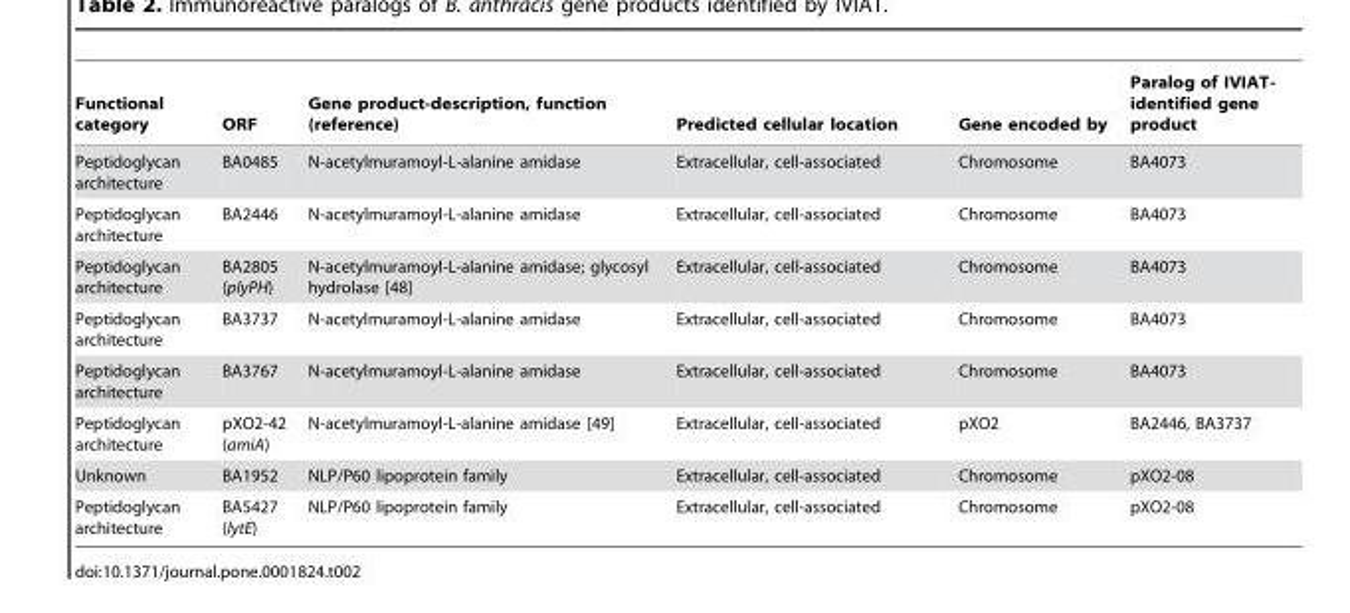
<table><thead><tr><td>Functional category</td><td>ORF</td><td>Gene product-description, function (reference)</td><td>Predicted cellular location</td><td>Gene encoded by</td><td>Paralog of IVIAT- identified gene product</td></tr></thead><tbody><tr><td>Peptidoglycan architecture</td><td>BA0485</td><td>N-acetylmuramoyl-L-alanine amidase</td><td>Extracellular, cell-associated</td><td>Chromosome</td><td>BA4073</td></tr><tr><td>Peptidoglycan architecture</td><td>BA2446</td><td>N-acetylmuramoyl-L-alanine amidase</td><td>Extracellular, cell-associated</td><td>Chromosome</td><td>BA4073</td></tr><tr><td>Peptidoglycan architecture</td><td>BA2805 (plyPH)</td><td>N-acetylmuramoyl-L-alanine amidase; glycosyl hydrolase [48]</td><td>Extracellular, cell-associated</td><td>Chromosome</td><td>BA4073</td></tr><tr><td>Peptidoglycan architecture</td><td>BA3737</td><td>N-acetylmuramoyl-L-alanine amidase</td><td>Extracellular, cell-associated</td><td>Chromosome</td><td>BA4073</td></tr><tr><td>Peptidoglycan architecture</td><td>BA3767</td><td>N-acetylmuramoyl-L-alanine amidase</td><td>Extracellular, cell-associated</td><td>Chromosome</td><td>BA4073</td></tr><tr><td>Peptidoglycan architecture</td><td>pXO2-42 (amiA)</td><td>N-acetylmuramoyl-L-alanine amidase [49]</td><td>Extracellular, cell-associated</td><td>pXO2</td><td>BA2446, BA3737</td></tr><tr><td>Unknown</td><td>BA1952</td><td>NLP/P60 lipoprotein family</td><td>Extracellular, cell-associated</td><td>Chromosome</td><td>pXO2-08</td></tr><tr><td>Peptidoglycan architecture</td><td>BA5427 (lytE)</td><td>NLP/P60 lipoprotein family</td><td>Extracellular, cell-associated</td><td>Chromosome</td><td>pXO2-08</td></tr></tbody></table>